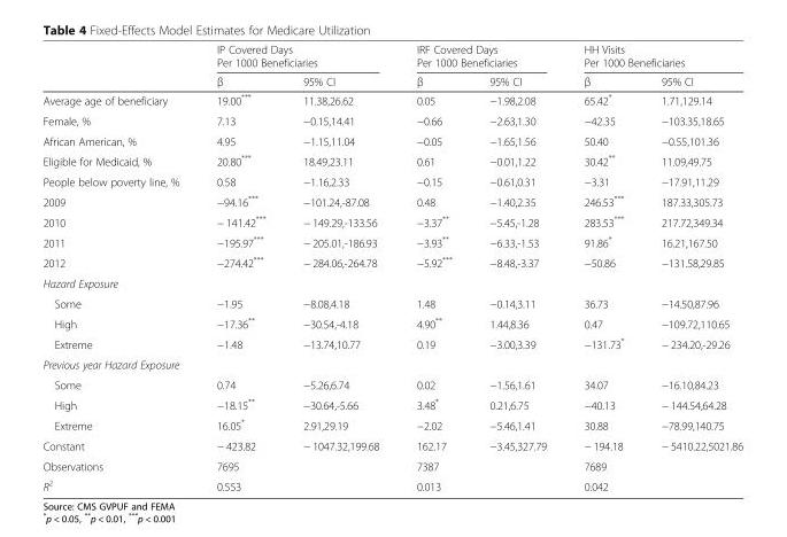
<table><thead><tr><td rowspan="2"></td><td colspan="2">IP Covered Days Per 1000 Beneficiaries</td><td colspan="2">IRF Covered Days Per 1000 Beneficiaries</td><td colspan="2">HH Visits Per 1000 Beneficiaries</td></tr><tr><td>β</td><td>95% CI</td><td>β</td><td>95% CI</td><td>β</td><td>95% CI</td></tr></thead><tbody><tr><td>Average age of beneficiary</td><td>19.00***</td><td>11.38,26.62</td><td>0.05</td><td>−1.98,2.08</td><td>65.42*</td><td>1.71,129.14</td></tr><tr><td>Female, %</td><td>7.13</td><td>−0.15,14.41</td><td>−0.66</td><td>−2.63,1.30</td><td>−42.35</td><td>−103.35,18.65</td></tr><tr><td>African American, %</td><td>4.95</td><td>−1.15,11.04</td><td>−0.05</td><td>−1.65,1.56</td><td>50.40</td><td>−0.55,101.36</td></tr><tr><td>Eligible for Medicaid, %</td><td>20.80***</td><td>18.49,23.11</td><td>0.61</td><td>−0.01,1.22</td><td>30.42**</td><td>11.09,49.75</td></tr><tr><td>People below poverty line, %</td><td>0.58</td><td>−1.16,2.33</td><td>−0.15</td><td>−0.61,0.31</td><td>−3.31</td><td>−17.91,11.29</td></tr><tr><td>2009</td><td>−94.16***</td><td>−101.24,-87.08</td><td>0.48</td><td>−1.40,2.35</td><td>246.53***</td><td>187.33,305.73</td></tr><tr><td>2010</td><td>− 141.42***</td><td>− 149.29,-133.56</td><td>−3.37**</td><td>−5.45,-1.28</td><td>283.53***</td><td>217.72,349.34</td></tr><tr><td>2011</td><td>−195.97***</td><td>− 205.01,-186.93</td><td>−3.93**</td><td>−6.33,-1.53</td><td>91.86*</td><td>16.21,167.50</td></tr><tr><td>2012</td><td>−274.42***</td><td>− 284.06,-264.78</td><td>−5.92***</td><td>−8.48,-3.37</td><td>−50.86</td><td>−131.58,29.85</td></tr><tr><td colspan="7">Hazard Exposure</td></tr><tr><td>Some</td><td>−1.95</td><td>−8.08,4.18</td><td>1.48</td><td>−0.14,3.11</td><td>36.73</td><td>−14.50,87.96</td></tr><tr><td>High</td><td>−17.36**</td><td>−30.54,-4.18</td><td>4.90**</td><td>1.44,8.36</td><td>0.47</td><td>−109.72,110.65</td></tr><tr><td>Extreme</td><td>−1.48</td><td>−13.74,10.77</td><td>0.19</td><td>−3.00,3.39</td><td>−131.73*</td><td>− 234.20,-29.26</td></tr><tr><td colspan="7">Previous year Hazard Exposure</td></tr><tr><td>Some</td><td>0.74</td><td>−5.26,6.74</td><td>0.02</td><td>−1.56,1.61</td><td>34.07</td><td>−16.10,84.23</td></tr><tr><td>High</td><td>−18.15**</td><td>−30.64,-5.66</td><td>3.48*</td><td>0.21,6.75</td><td>−40.13</td><td>− 144.54,64.28</td></tr><tr><td>Extreme</td><td>16.05*</td><td>2.91,29.19</td><td>−2.02</td><td>−5.46,1.41</td><td>30.88</td><td>−78.99,140.75</td></tr><tr><td>Constant</td><td>− 423.82</td><td>− 1047.32,199.68</td><td>162.17</td><td>−3.45,327.79</td><td>− 194.18</td><td>− 5410.22,5021.86</td></tr><tr><td>Observations</td><td>7695</td><td></td><td>7387</td><td></td><td>7689</td><td></td></tr><tr><td>R<sup>2</sup></td><td>0.553</td><td></td><td>0.013</td><td></td><td>0.042</td><td></td></tr></tbody></table>